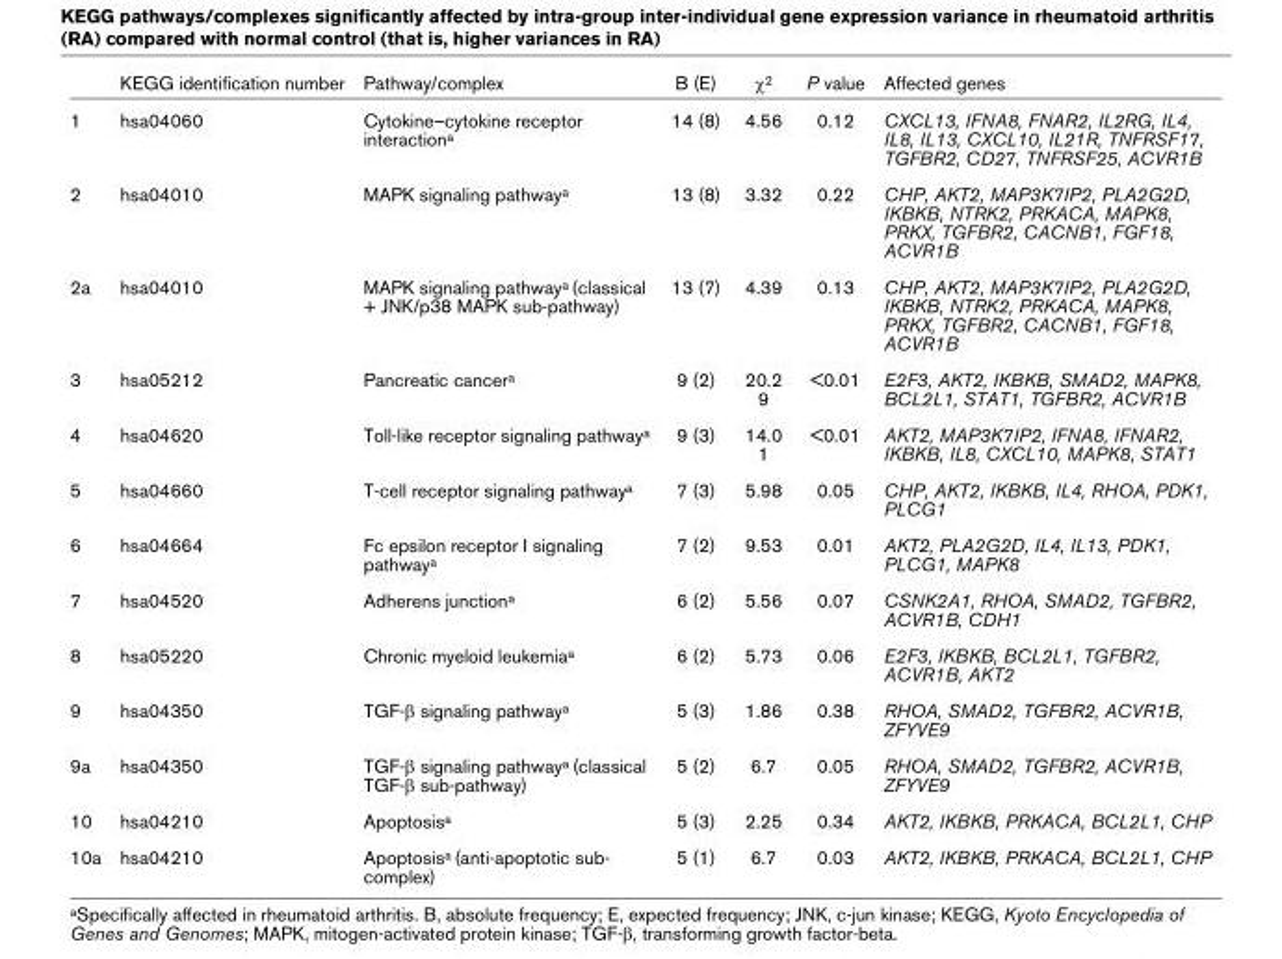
<table><thead><tr><td></td><td>KEGG identification number</td><td>Pathway/complex</td><td>B (E)</td><td>χ<sup>2</sup></td><td>P value</td><td>Affected genes</td></tr></thead><tbody><tr><td>1</td><td>hsa04060</td><td>Cytokine–cytokine receptor interaction<sup>a</sup></td><td>14 (8)</td><td>4.56</td><td>0.12</td><td>CXCL13, IFNA8, FNAR2, IL2RG, IL4, IL8, IL13, CXCL10, IL21R, TNFRSF17, TGFBR2, CD27, TNFRSF25, ACVR1B</td></tr><tr><td>2</td><td>hsa04010</td><td>MAPK signaling pathway<sup>a</sup></td><td>13 (8)</td><td>3.32</td><td>0.22</td><td>CHP, AKT2, MAP3K7IP2, PLA2G2D, IKBKB, NTRK2, PRKACA, MAPK8, PRKX, TGFBR2, CACNB1, FGF18, ACVR1B</td></tr><tr><td>2a</td><td>hsa04010</td><td>MAPK signaling pathway<sup>a</sup> (classical + JNK/p38 MAPK sub-pathway)</td><td>13 (7)</td><td>4.39</td><td>0.13</td><td>CHP, AKT2, MAP3K7IP2, PLA2G2D, IKBKB, NTRK2, PRKACA, MAPK8, PRKX, TGFBR2, CACNB1, FGF18, ACVR1B</td></tr><tr><td>3</td><td>hsa05212</td><td>Pancreatic cancer<sup>a</sup></td><td>9 (2)</td><td>20.2 9</td><td>&lt;0.01</td><td>E2F3, AKT2, IKBKB, SMAD2, MAPK8, BCL2L1, STAT1, TGFBR2, ACVR1B</td></tr><tr><td>4</td><td>hsa04620</td><td>Toll-like receptor signaling pathway<sup>a</sup></td><td>9 (3)</td><td>14.0 1</td><td>&lt;0.01</td><td>AKT2, MAP3K7IP2, IFNA8, IFNAR2, IKBKB, IL8, CXCL10, MAPK8, STAT1</td></tr><tr><td>5</td><td>hsa04660</td><td>T-cell receptor signaling pathway<sup>a</sup></td><td>7 (3)</td><td>5.98</td><td>0.05</td><td>CHP, AKT2, IKBKB, IL4, RHOA, PDK1, PLCG1</td></tr><tr><td>6</td><td>hsa04664</td><td>Fc epsilon receptor I signaling pathway<sup>a</sup></td><td>7 (2)</td><td>9.53</td><td>0.01</td><td>AKT2, PLA2G2D, IL4, IL13, PDK1, PLCG1, MAPK8</td></tr><tr><td>7</td><td>hsa04520</td><td>Adherens junction<sup>a</sup></td><td>6 (2)</td><td>5.56</td><td>0.07</td><td>CSNK2A1, RHOA, SMAD2, TGFBR2, ACVR1B, CDH1</td></tr><tr><td>8</td><td>hsa05220</td><td>Chronic myeloid leukemia<sup>a</sup></td><td>6 (2)</td><td>5.73</td><td>0.06</td><td>E2F3, IKBKB, BCL2L1, TGFBR2, ACVR1B, AKT2</td></tr><tr><td>9</td><td>hsa04350</td><td>TGF-β signaling pathway<sup>a</sup></td><td>5 (3)</td><td>1.86</td><td>0.38</td><td>RHOA, SMAD2, TGFBR2, ACVR1B, ZFYVE9</td></tr><tr><td>9a</td><td>hsa04350</td><td>TGF-β signaling pathway<sup>a</sup> (classical TGF-β sub-pathway)</td><td>5 (2)</td><td>6.7</td><td>0.05</td><td>RHOA, SMAD2, TGFBR2, ACVR1B, ZFYVE9</td></tr><tr><td>10</td><td>hsa04210</td><td>Apoptosis<sup>a</sup></td><td>5 (3)</td><td>2.25</td><td>0.34</td><td>AKT2, IKBKB, PRKACA, BCL2L1, CHP</td></tr><tr><td>10a</td><td>hsa04210</td><td>Apoptosis<sup>a</sup> (anti-apoptotic sub- complex)</td><td>5 (1)</td><td>6.7</td><td>0.03</td><td>AKT2, IKBKB, PRKACA, BCL2L1, CHP</td></tr></tbody></table>